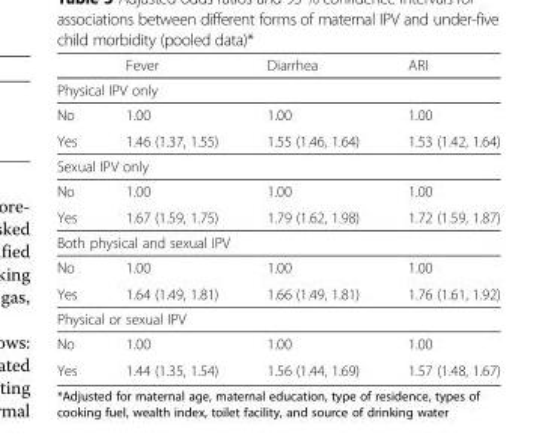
<table><thead><tr><td></td><td>Fever</td><td>Diarrhea</td><td>ARI</td></tr></thead><tbody><tr><td colspan="4">Physical IPV only</td></tr><tr><td>No</td><td>1.00</td><td>1.00</td><td>1.00</td></tr><tr><td>Yes</td><td>1.46 (1.37, 1.55)</td><td>1.55 (1.46, 1.64)</td><td>1.53 (1.42, 1.64)</td></tr><tr><td colspan="4">Sexual IPV only</td></tr><tr><td>No</td><td>1.00</td><td>1.00</td><td>1.00</td></tr><tr><td>Yes</td><td>1.67 (1.59, 1.75)</td><td>1.79 (1.62, 1.98)</td><td>1.72 (1.59, 1.87)</td></tr><tr><td colspan="4">Both physical and sexual IPV</td></tr><tr><td>No</td><td>1.00</td><td>1.00</td><td>1.00</td></tr><tr><td>Yes</td><td>1.64 (1.49, 1.81)</td><td>1.66 (1.49, 1.81)</td><td>1.76 (1.61, 1.92)</td></tr><tr><td colspan="4">Physical or sexual IPV</td></tr><tr><td>No</td><td>1.00</td><td>1.00</td><td>1.00</td></tr><tr><td>Yes</td><td>1.44 (1.35, 1.54)</td><td>1.56 (1.44, 1.69)</td><td>1.57 (1.48, 1.67)</td></tr></tbody></table>